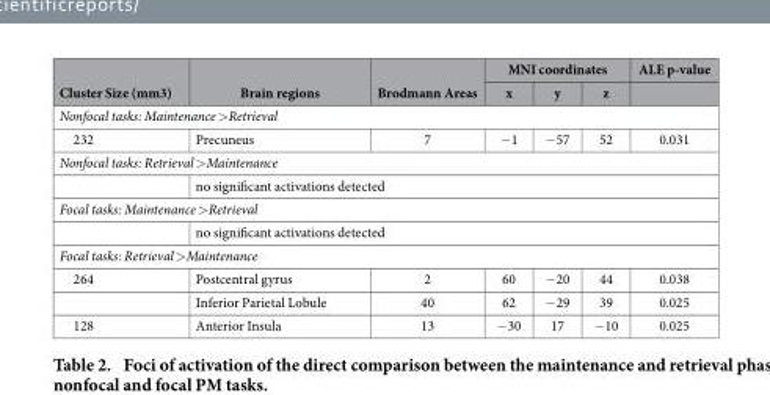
<table><thead><tr><td rowspan="2">Cluster Size (mm3)</td><td rowspan="2">Brain regions</td><td rowspan="2">Brodmann Areas</td><td colspan="3">MNI coordinates</td><td rowspan="2">ALE p-value</td></tr><tr><td>x</td><td>y</td><td>z</td></tr></thead><tbody><tr><td colspan="7">Nonfocal tasks: Maintenance &gt;Retrieval</td></tr><tr><td>232</td><td>Precuneus</td><td>7</td><td>−1</td><td>−57</td><td>52</td><td>0.031</td></tr><tr><td colspan="7">Nonfocal tasks: Retrieval &gt;Maintenance</td></tr><tr><td></td><td colspan="6">no significant activations detected</td></tr><tr><td colspan="7">Focal tasks: Maintenance &gt;Retrieval</td></tr><tr><td></td><td colspan="6">no significant activations detected</td></tr><tr><td colspan="7">Focal tasks: Retrieval &gt;Maintenance</td></tr><tr><td rowspan="2">264</td><td>Postcentral gyrus</td><td>2</td><td>60</td><td>−20</td><td>44</td><td>0.038</td></tr><tr><td>Inferior Parietal Lobule</td><td>40</td><td>62</td><td>−29</td><td>39</td><td>0.025</td></tr><tr><td>128</td><td>Anterior Insula</td><td>13</td><td>−30</td><td>17</td><td>−10</td><td>0.025</td></tr></tbody></table>